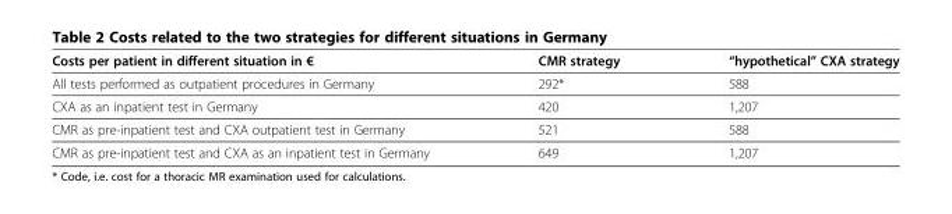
<table><thead><tr><td>Costs per patient in different situation in €</td><td>CMR strategy</td><td>“hypothetical” CXA strategy</td></tr></thead><tbody><tr><td>All tests performed as outpatient procedures in Germany</td><td>292*</td><td>588</td></tr><tr><td>CXA as an inpatient test in Germany</td><td>420</td><td>1,207</td></tr><tr><td>CMR as pre-inpatient test and CXA outpatient test in Germany</td><td>521</td><td>588</td></tr><tr><td>CMR as pre-inpatient test and CXA as an inpatient test in Germany</td><td>649</td><td>1,207</td></tr></tbody></table>